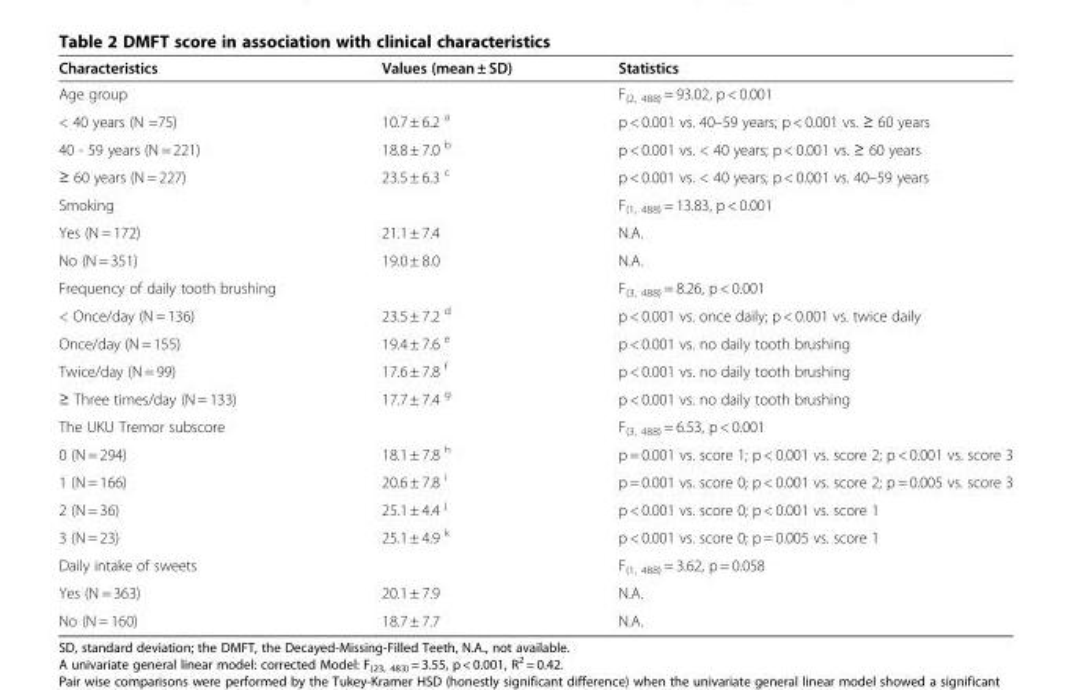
<table><thead><tr><td>Characteristics</td><td>Values (mean ± SD)</td><td>Statistics</td></tr></thead><tbody><tr><td>Age group</td><td></td><td>F<sub>(2, 488)</sub> = 93.02, p &lt; 0.001</td></tr><tr><td>&lt; 40 years (N =75)</td><td>10.7 ± 6.2 <sup>a</sup></td><td>p &lt; 0.001 vs. 40–59 years; p &lt; 0.001 vs. ≥ 60 years</td></tr><tr><td>40 - 59 years (N = 221)</td><td>18.8 ± 7.0 <sup>b</sup></td><td>p &lt; 0.001 vs. &lt; 40 years; p &lt; 0.001 vs. ≥ 60 years</td></tr><tr><td>≥ 60 years (N = 227)</td><td>23.5 ± 6.3 <sup>c</sup></td><td>p &lt; 0.001 vs. &lt; 40 years; p &lt; 0.001 vs. 40–59 years</td></tr><tr><td>Smoking</td><td></td><td>F<sub>(1, 488)</sub> = 13.83, p &lt; 0.001</td></tr><tr><td>Yes (N = 172)</td><td>21.1 ± 7.4</td><td>N.A.</td></tr><tr><td>No (N = 351)</td><td>19.0 ± 8.0</td><td>N.A.</td></tr><tr><td>Frequency of daily tooth brushing</td><td></td><td>F<sub>(3, 488)</sub> = 8.26, p &lt; 0.001</td></tr><tr><td>&lt; Once/day (N = 136)</td><td>23.5 ± 7.2 <sup>d</sup></td><td>p &lt; 0.001 vs. once daily; p &lt; 0.001 vs. twice daily</td></tr><tr><td>Once/day (N = 155)</td><td>19.4 ± 7.6 <sup>e</sup></td><td>p &lt; 0.001 vs. no daily tooth brushing</td></tr><tr><td>Twice/day (N = 99)</td><td>17.6 ± 7.8 <sup>f</sup></td><td>p &lt; 0.001 vs. no daily tooth brushing</td></tr><tr><td>≥ Three times/day (N = 133)</td><td>17.7 ± 7.4 <sup>g</sup></td><td>p &lt; 0.001 vs. no daily tooth brushing</td></tr><tr><td>The UKU Tremor subscore</td><td></td><td>F<sub>(3, 488)</sub> = 6.53, p &lt; 0.001</td></tr><tr><td>0 (N = 294)</td><td>18.1 ± 7.8 <sup>h</sup></td><td>p = 0.001 vs. score 1; p &lt; 0.001 vs. score 2; p &lt; 0.001 vs. score 3</td></tr><tr><td>1 (N = 166)</td><td>20.6 ± 7.8 <sup>i</sup></td><td>p = 0.001 vs. score 0; p &lt; 0.001 vs. score 2; p = 0.005 vs. score 3</td></tr><tr><td>2 (N = 36)</td><td>25.1 ± 4.4 <sup>j</sup></td><td>p &lt; 0.001 vs. score 0; p &lt; 0.001 vs. score 1</td></tr><tr><td>3 (N = 23)</td><td>25.1 ± 4.9 <sup>k</sup></td><td>p &lt; 0.001 vs. score 0; p = 0.005 vs. score 1</td></tr><tr><td>Daily intake of sweets</td><td></td><td>F<sub>(1, 488)</sub> = 3.62, p = 0.058</td></tr><tr><td>Yes (N = 363)</td><td>20.1 ± 7.9</td><td>N.A.</td></tr><tr><td>No (N = 160)</td><td>18.7 ± 7.7</td><td>N.A.</td></tr></tbody></table>